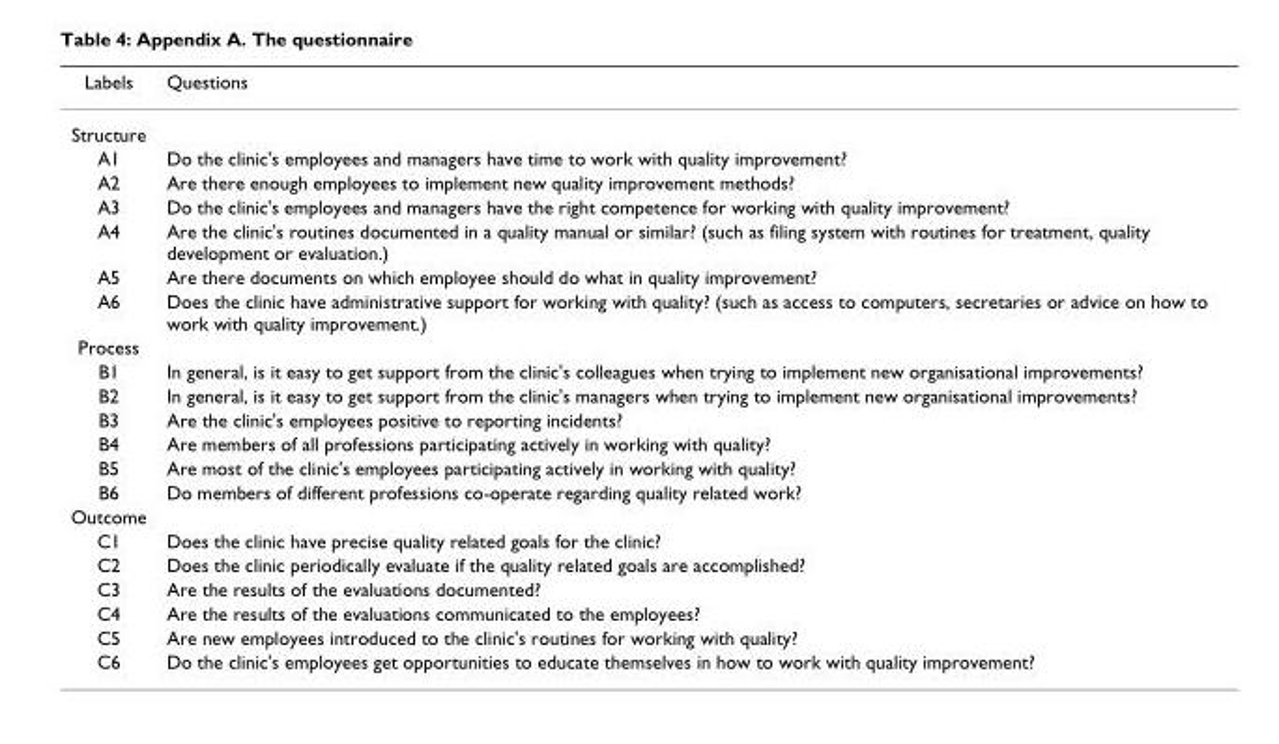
<table><thead><tr><td>Labels</td><td>Questions</td></tr></thead><tbody><tr><td colspan="2">Structure</td></tr><tr><td>A1</td><td>Do the clinic&#x27;s employees and managers have time to work with quality improvement?</td></tr><tr><td>A2</td><td>Are there enough employees to implement new quality improvement methods?</td></tr><tr><td>A3</td><td>Do the clinic&#x27;s employees and managers have the right competence for working with quality improvement?</td></tr><tr><td>A4</td><td>Are the clinic&#x27;s routines documented in a quality manual or similar? (such as filing system with routines for treatment, quality development or evaluation.)</td></tr><tr><td>A5</td><td>Are there documents on which employee should do what in quality improvement?</td></tr><tr><td>A6</td><td>Does the clinic have administrative support for working with quality? (such as access to computers, secretaries or advice on how to work with quality improvement.)</td></tr><tr><td colspan="2">Process</td></tr><tr><td>B1</td><td>In general, is it easy to get support from the clinic&#x27;s colleagues when trying to implement new organisational improvements?</td></tr><tr><td>B2</td><td>In general, is it easy to get support from the clinic&#x27;s managers when trying to implement new organisational improvements?</td></tr><tr><td>B3</td><td>Are the clinic&#x27;s employees positive to reporting incidents?</td></tr><tr><td>B4</td><td>Are members of all professions participating actively in working with quality?</td></tr><tr><td>B5</td><td>Are most of the clinic&#x27;s employees participating actively in working with quality?</td></tr><tr><td>B6</td><td>Do members of different professions co-operate regarding quality related work?</td></tr><tr><td colspan="2">Outcome</td></tr><tr><td>C1</td><td>Does the clinic have precise quality related goals for the clinic?</td></tr><tr><td>C2</td><td>Does the clinic periodically evaluate if the quality related goals are accomplished?</td></tr><tr><td>C3</td><td>Are the results of the evaluations documented?</td></tr><tr><td>C4</td><td>Are the results of the evaluations communicated to the employees?</td></tr><tr><td>C5</td><td>Are new employees introduced to the clinic&#x27;s routines for working with quality?</td></tr><tr><td>C6</td><td>Do the clinic&#x27;s employees get opportunities to educate themselves in how to work with quality improvement?</td></tr></tbody></table>